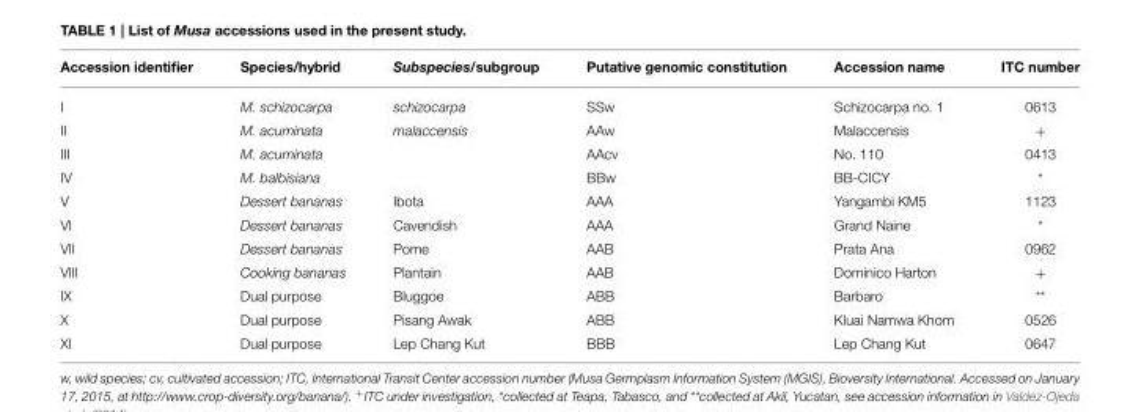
<table><thead><tr><td>Accession identifier</td><td>Species/hybrid</td><td>Subspecies/subgroup</td><td>Putative genomic constitution</td><td>Accession name</td><td>ITC number</td></tr></thead><tbody><tr><td>I</td><td>M. schizocarpa</td><td>schizocarpa</td><td>SSw</td><td>Schizocarpa no. 1</td><td>0613</td></tr><tr><td>II</td><td>M. acuminata</td><td>malaccensis</td><td>AAw</td><td>Malaccensis</td><td>+</td></tr><tr><td>III</td><td>M. acuminata</td><td></td><td>AAcv</td><td>No. 110</td><td>0413</td></tr><tr><td>IV</td><td>M. balbisiana</td><td></td><td>BBw</td><td>BB-CICY</td><td>*</td></tr><tr><td>V</td><td>Dessert bananas</td><td>Ibota</td><td>AAA</td><td>Yangambi KM5</td><td>1123</td></tr><tr><td>VI</td><td>Dessert bananas</td><td>Cavendish</td><td>AAA</td><td>Grand Naine</td><td>*</td></tr><tr><td>VII</td><td>Dessert bananas</td><td>Pome</td><td>AAB</td><td>Prata Ana</td><td>0962</td></tr><tr><td>VIII</td><td>Cooking bananas</td><td>Plantain</td><td>AAB</td><td>Dominico Harton</td><td>+</td></tr><tr><td>IX</td><td>Dual purpose</td><td>Bluggoe</td><td>ABB</td><td>Barbaro</td><td>**</td></tr><tr><td>X</td><td>Dual purpose</td><td>Pisang Awak</td><td>ABB</td><td>Kluai Namwa Khom</td><td>0526</td></tr><tr><td>XI</td><td>Dual purpose</td><td>Lep Chang Kut</td><td>BBB</td><td>Lep Chang Kut</td><td>0647</td></tr></tbody></table>